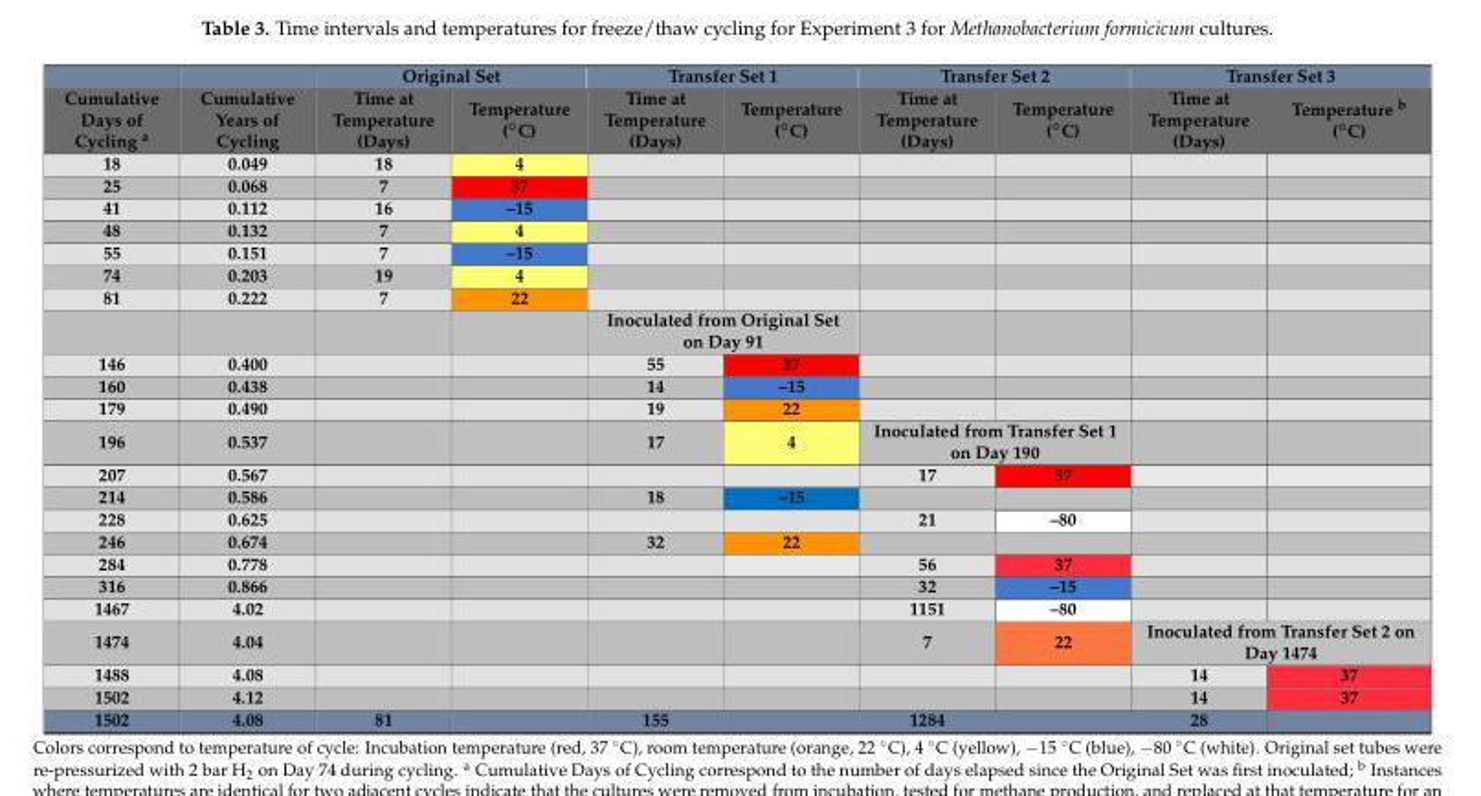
<table><thead><tr><td rowspan="2">Cumulative Days of Cycling <sup>a</sup></td><td rowspan="2">Cumulative Years of Cycling</td><td colspan="2">Original Set</td><td colspan="2">Transfer Set 1</td><td colspan="2">Transfer Set 2</td><td colspan="2">Transfer Set 3</td></tr><tr><td>Time at Temperature (Days)</td><td>Temperature (◦C)</td><td>Time at Temperature (Days)</td><td>Temperature (◦C)</td><td>Time at Temperature (Days)</td><td>Temperature (◦C)</td><td>Time at Temperature (Days)</td><td>Temperature b (◦C)</td></tr></thead><tbody><tr><td>18</td><td>0.049</td><td>18</td><td>4</td><td></td><td></td><td></td><td></td><td></td><td></td></tr><tr><td>25</td><td>0.068</td><td>7</td><td>37</td><td></td><td></td><td></td><td></td><td></td><td></td></tr><tr><td>41</td><td>0.112</td><td>16</td><td>–15</td><td></td><td></td><td></td><td></td><td></td><td></td></tr><tr><td>48</td><td>0.132</td><td>7</td><td>4</td><td></td><td></td><td></td><td></td><td></td><td></td></tr><tr><td>55</td><td>0.151</td><td>7</td><td>–15</td><td></td><td></td><td></td><td></td><td></td><td></td></tr><tr><td>74</td><td>0.203</td><td>19</td><td>4</td><td></td><td></td><td></td><td></td><td></td><td></td></tr><tr><td rowspan="2">81</td><td>0.222</td><td>7</td><td>22</td><td></td><td></td><td></td><td></td><td></td><td></td></tr><tr><td></td><td></td><td></td><td colspan="2">Inoculated from Original Set on Day 91</td><td></td><td></td><td></td><td></td></tr><tr><td>146</td><td>0.400</td><td></td><td></td><td>55</td><td>37</td><td></td><td></td><td></td><td></td></tr><tr><td>160</td><td>0.438</td><td></td><td></td><td>14</td><td>–15</td><td></td><td></td><td></td><td></td></tr><tr><td>179</td><td>0.490</td><td></td><td></td><td>19</td><td>22</td><td></td><td></td><td></td><td></td></tr><tr><td>196</td><td>0.537</td><td></td><td></td><td>17</td><td>4</td><td colspan="2">Inoculated from Transfer Set 1 on Day 190</td><td></td><td></td></tr><tr><td>207</td><td>0.567</td><td></td><td></td><td></td><td></td><td>17</td><td>37</td><td></td><td></td></tr><tr><td>214</td><td>0.586</td><td></td><td></td><td>18</td><td>–15</td><td></td><td></td><td></td><td></td></tr><tr><td>228</td><td>0.625</td><td></td><td></td><td></td><td></td><td>21</td><td>–80</td><td></td><td></td></tr><tr><td>246</td><td>0.674</td><td></td><td></td><td>32</td><td>22</td><td></td><td></td><td></td><td></td></tr><tr><td>284</td><td>0.778</td><td></td><td></td><td></td><td></td><td>56</td><td>37</td><td></td><td></td></tr><tr><td>316</td><td>0.866</td><td></td><td></td><td></td><td></td><td>32</td><td>–15</td><td></td><td></td></tr><tr><td>1467</td><td>4.02</td><td></td><td></td><td></td><td></td><td>1151</td><td>–80</td><td></td><td></td></tr><tr><td>1474</td><td>4.04</td><td></td><td></td><td></td><td></td><td>7</td><td>22</td><td colspan="2">Inoculated from Transfer Set 2 on Day 1474</td></tr><tr><td>1488</td><td>4.08</td><td></td><td></td><td></td><td></td><td></td><td></td><td>14</td><td>37</td></tr><tr><td>1502</td><td>4.12</td><td></td><td></td><td></td><td></td><td></td><td></td><td>14</td><td>37</td></tr><tr><td>1502</td><td>4.08</td><td>81</td><td></td><td>155</td><td></td><td>1284</td><td></td><td>28</td><td></td></tr></tbody></table>